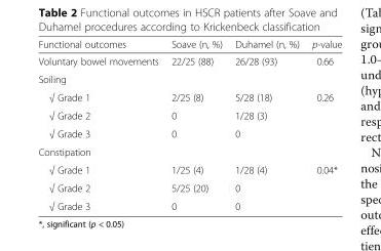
<table><thead><tr><td>Functional outcomes</td><td>Soave (n, %)</td><td>Duhamel (n, %)</td><td>p-value</td></tr></thead><tbody><tr><td>Voluntary bowel movements</td><td>22/25 (88)</td><td>26/28 (93)</td><td>0.66</td></tr><tr><td colspan="4">Soiling</td></tr><tr><td>√ Grade 1</td><td>2/25 (8)</td><td>5/28 (18)</td><td>0.26</td></tr><tr><td>√ Grade 2</td><td>0</td><td>1/28 (3)</td><td></td></tr><tr><td>√ Grade 3</td><td>0</td><td>0</td><td></td></tr><tr><td colspan="4">Constipation</td></tr><tr><td>√ Grade 1</td><td>1/25 (4)</td><td>1/28 (4)</td><td>0.04*</td></tr><tr><td>√ Grade 2</td><td>5/25 (20)</td><td>0</td><td></td></tr><tr><td>√ Grade 3</td><td>0</td><td>0</td><td></td></tr></tbody></table>